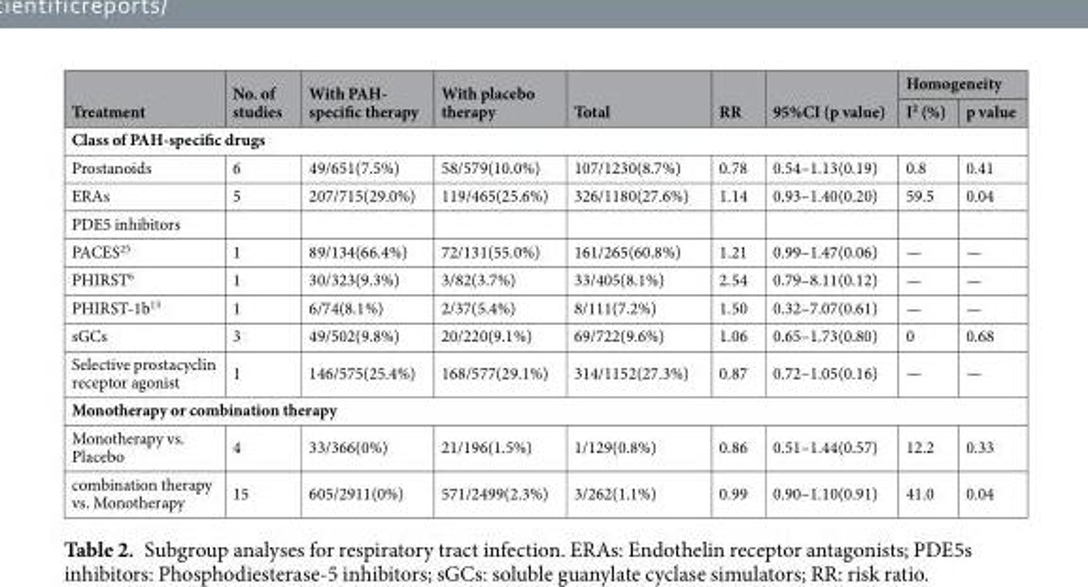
<table><thead><tr><td rowspan="2">Treatment</td><td rowspan="2">No. of studies</td><td rowspan="2">With PAH- specific therapy</td><td rowspan="2">With placebo therapy</td><td rowspan="2">Total</td><td rowspan="2">RR</td><td rowspan="2">95%CI (p value)</td><td colspan="2">Homogeneity</td></tr><tr><td>I<sup>2</sup> (%)</td><td>p value</td></tr></thead><tbody><tr><td colspan="9">Class of PAH-specific drugs</td></tr><tr><td>Prostanoids</td><td>6</td><td>49/651(7.5%)</td><td>58/579(10.0%)</td><td>107/1230(8.7%)</td><td>0.78</td><td>0.54–1.13(0.19)</td><td>0.8</td><td>0.41</td></tr><tr><td>ERAs</td><td>5</td><td>207/715(29.0%)</td><td>119/465(25.6%)</td><td>326/1180(27.6%)</td><td>1.14</td><td>0.93–1.40(0.20)</td><td>59.5</td><td>0.04</td></tr><tr><td colspan="9">PDE5 inhibitors</td></tr><tr><td>PACES<sup>25</sup></td><td>1</td><td>89/134(66.4%)</td><td>72/131(55.0%)</td><td>161/265(60.8%)</td><td>1.21</td><td>0.99–1.47(0.06)</td><td>—</td><td>—</td></tr><tr><td>PHIRST<sup>6</sup></td><td>1</td><td>30/323(9.3%)</td><td>3/82(3.7%)</td><td>33/405(8.1%)</td><td>2.54</td><td>0.79–8.11(0.12)</td><td>—</td><td>—</td></tr><tr><td>PHIRST-1b<sup>13</sup></td><td>1</td><td>6/74(8.1%)</td><td>2/37(5.4%)</td><td>8/111(7.2%)</td><td>1.50</td><td>0.32–7.07(0.61)</td><td>—</td><td>—</td></tr><tr><td>sGCs</td><td>3</td><td>49/502(9.8%)</td><td>20/220(9.1%)</td><td>69/722(9.6%)</td><td>1.06</td><td>0.65–1.73(0.80)</td><td>0</td><td>0.68</td></tr><tr><td>Selective prostacyclin receptor agonist</td><td>1</td><td>146/575(25.4%)</td><td>168/577(29.1%)</td><td>314/1152(27.3%)</td><td>0.87</td><td>0.72–1.05(0.16)</td><td>—</td><td>—</td></tr><tr><td colspan="9">Monotherapy or combination therapy</td></tr><tr><td>Monotherapy vs. Placebo</td><td>4</td><td>33/366(0%)</td><td>21/196(1.5%)</td><td>1/129(0.8%)</td><td>0.86</td><td>0.51–1.44(0.57)</td><td>12.2</td><td>0.33</td></tr><tr><td>combination therapy vs. Monotherapy</td><td>15</td><td>605/2911(0%)</td><td>571/2499(2.3%)</td><td>3/262(1.1%)</td><td>0.99</td><td>0.90–1.10(0.91)</td><td>41.0</td><td>0.04</td></tr></tbody></table>